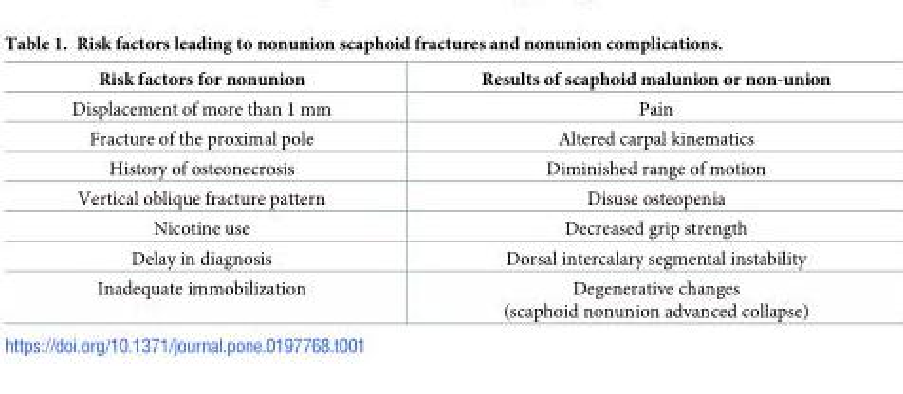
<table><thead><tr><td>Risk factors for nonunion</td><td>Results of scaphoid malunion or non-union</td></tr></thead><tbody><tr><td>Displacement of more than 1 mm</td><td>Pain</td></tr><tr><td>Fracture of the proximal pole</td><td>Altered carpal kinematics</td></tr><tr><td>History of osteonecrosis</td><td>Diminished range of motion</td></tr><tr><td>Vertical oblique fracture pattern</td><td>Disuse osteopenia</td></tr><tr><td>Nicotine use</td><td>Decreased grip strength</td></tr><tr><td>Delay in diagnosis</td><td>Dorsal intercalary segmental instability</td></tr><tr><td>Inadequate immobilization</td><td>Degenerative changes (scaphoid nonunion advanced collapse)</td></tr></tbody></table>